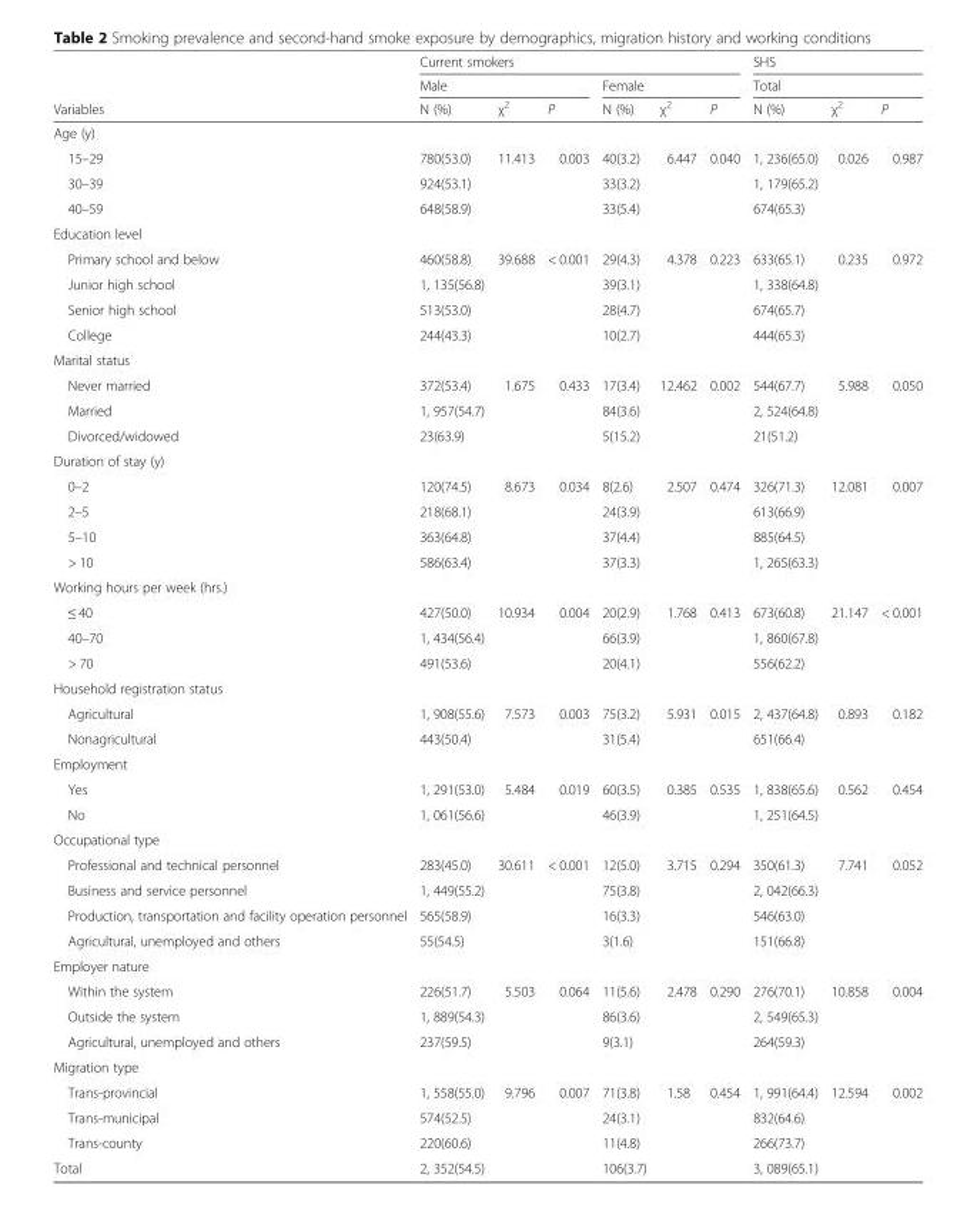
<table><thead><tr><td rowspan="3">Variables</td><td colspan="6">Current smokers</td><td rowspan="2" colspan="3">SHS Total</td></tr><tr><td colspan="3">Male</td><td colspan="3">Female</td></tr><tr><td>N (%)</td><td>χ<sup>2</sup></td><td>P</td><td>N (%)</td><td>χ<sup>2</sup></td><td>P</td><td>N (%)</td><td>χ<sup>2</sup></td><td>P</td></tr></thead><tbody><tr><td colspan="10">Age (y)</td></tr><tr><td>15–29</td><td>780(53.0)</td><td>11.413</td><td>0.003</td><td>40(3.2)</td><td>6.447</td><td>0.040</td><td>1, 236(65.0)</td><td>0.026</td><td>0.987</td></tr><tr><td>30–39</td><td>924(53.1)</td><td></td><td></td><td>33(3.2)</td><td></td><td></td><td>1, 179(65.2)</td><td></td><td></td></tr><tr><td>40–59</td><td>648(58.9)</td><td></td><td></td><td>33(5.4)</td><td></td><td></td><td>674(65.3)</td><td></td><td></td></tr><tr><td colspan="10">Education level</td></tr><tr><td>Primary school and below</td><td>460(58.8)</td><td>39.688</td><td>&lt; 0.001</td><td>29(4.3)</td><td>4.378</td><td>0.223</td><td>633(65.1)</td><td>0.235</td><td>0.972</td></tr><tr><td>Junior high school</td><td>1, 135(56.8)</td><td></td><td></td><td>39(3.1)</td><td></td><td></td><td>1, 338(64.8)</td><td></td><td></td></tr><tr><td>Senior high school</td><td>513(53.0)</td><td></td><td></td><td>28(4.7)</td><td></td><td></td><td>674(65.7)</td><td></td><td></td></tr><tr><td>College</td><td>244(43.3)</td><td></td><td></td><td>10(2.7)</td><td></td><td></td><td>444(65.3)</td><td></td><td></td></tr><tr><td colspan="10">Marital status</td></tr><tr><td>Never married</td><td>372(53.4)</td><td>1.675</td><td>0.433</td><td>17(3.4)</td><td>12.462</td><td>0.002</td><td>544(67.7)</td><td>5.988</td><td>0.050</td></tr><tr><td>Married</td><td>1, 957(54.7)</td><td></td><td></td><td>84(3.6)</td><td></td><td></td><td>2, 524(64.8)</td><td></td><td></td></tr><tr><td>Divorced/widowed</td><td>23(63.9)</td><td></td><td></td><td>5(15.2)</td><td></td><td></td><td>21(51.2)</td><td></td><td></td></tr><tr><td colspan="10">Duration of stay (y)</td></tr><tr><td>0–2</td><td>120(74.5)</td><td>8.673</td><td>0.034</td><td>8(2.6)</td><td>2.507</td><td>0.474</td><td>326(71.3)</td><td>12.081</td><td>0.007</td></tr><tr><td>2–5</td><td>218(68.1)</td><td></td><td></td><td>24(3.9)</td><td></td><td></td><td>613(66.9)</td><td></td><td></td></tr><tr><td>5–10</td><td>363(64.8)</td><td></td><td></td><td>37(4.4)</td><td></td><td></td><td>885(64.5)</td><td></td><td></td></tr><tr><td>&gt; 10</td><td>586(63.4)</td><td></td><td></td><td>37(3.3)</td><td></td><td></td><td>1, 265(63.3)</td><td></td><td></td></tr><tr><td colspan="10">Working hours per week (hrs.)</td></tr><tr><td>≤ 40</td><td>427(50.0)</td><td>10.934</td><td>0.004</td><td>20(2.9)</td><td>1.768</td><td>0.413</td><td>673(60.8)</td><td>21.147</td><td>&lt; 0.001</td></tr><tr><td>40–70</td><td>1, 434(56.4)</td><td></td><td></td><td>66(3.9)</td><td></td><td></td><td>1, 860(67.8)</td><td></td><td></td></tr><tr><td>&gt; 70</td><td>491(53.6)</td><td></td><td></td><td>20(4.1)</td><td></td><td></td><td>556(62.2)</td><td></td><td></td></tr><tr><td colspan="10">Household registration status</td></tr><tr><td>Agricultural</td><td>1, 908(55.6)</td><td>7.573</td><td>0.003</td><td>75(3.2)</td><td>5.931</td><td>0.015</td><td>2, 437(64.8)</td><td>0.893</td><td>0.182</td></tr><tr><td>Nonagricultural</td><td>443(50.4)</td><td></td><td></td><td>31(5.4)</td><td></td><td></td><td>651(66.4)</td><td></td><td></td></tr><tr><td colspan="10">Employment</td></tr><tr><td>Yes</td><td>1, 291(53.0)</td><td>5.484</td><td>0.019</td><td>60(3.5)</td><td>0.385</td><td>0.535</td><td>1, 838(65.6)</td><td>0.562</td><td>0.454</td></tr><tr><td>No</td><td>1, 061(56.6)</td><td></td><td></td><td>46(3.9)</td><td></td><td></td><td>1, 251(64.5)</td><td></td><td></td></tr><tr><td colspan="10">Occupational type</td></tr><tr><td>Professional and technical personnel</td><td>283(45.0)</td><td>30.611</td><td>&lt; 0.001</td><td>12(5.0)</td><td>3.715</td><td>0.294</td><td>350(61.3)</td><td>7.741</td><td>0.052</td></tr><tr><td>Business and service personnel</td><td>1, 449(55.2)</td><td></td><td></td><td>75(3.8)</td><td></td><td></td><td>2, 042(66.3)</td><td></td><td></td></tr><tr><td>Production, transportation and facility operation personnel</td><td>565(58.9)</td><td></td><td></td><td>16(3.3)</td><td></td><td></td><td>546(63.0)</td><td></td><td></td></tr><tr><td>Agricultural, unemployed and others</td><td>55(54.5)</td><td></td><td></td><td>3(1.6)</td><td></td><td></td><td>151(66.8)</td><td></td><td></td></tr><tr><td colspan="10">Employer nature</td></tr><tr><td>Within the system</td><td>226(51.7)</td><td>5.503</td><td>0.064</td><td>11(5.6)</td><td>2.478</td><td>0.290</td><td>276(70.1)</td><td>10.858</td><td>0.004</td></tr><tr><td>Outside the system</td><td>1, 889(54.3)</td><td></td><td></td><td>86(3.6)</td><td></td><td></td><td>2, 549(65.3)</td><td></td><td></td></tr><tr><td>Agricultural, unemployed and others</td><td>237(59.5)</td><td></td><td></td><td>9(3.1)</td><td></td><td></td><td>264(59.3)</td><td></td><td></td></tr><tr><td colspan="10">Migration type</td></tr><tr><td>Trans-provincial</td><td>1, 558(55.0)</td><td>9.796</td><td>0.007</td><td>71(3.8)</td><td>1.58</td><td>0.454</td><td>1, 991(64.4)</td><td>12.594</td><td>0.002</td></tr><tr><td>Trans-municipal</td><td>574(52.5)</td><td></td><td></td><td>24(3.1)</td><td></td><td></td><td>832(64.6)</td><td></td><td></td></tr><tr><td>Trans-county</td><td>220(60.6)</td><td></td><td></td><td>11(4.8)</td><td></td><td></td><td>266(73.7)</td><td></td><td></td></tr><tr><td>Total</td><td>2, 352(54.5)</td><td></td><td></td><td>106(3.7)</td><td></td><td></td><td>3, 089(65.1)</td><td></td><td></td></tr></tbody></table>